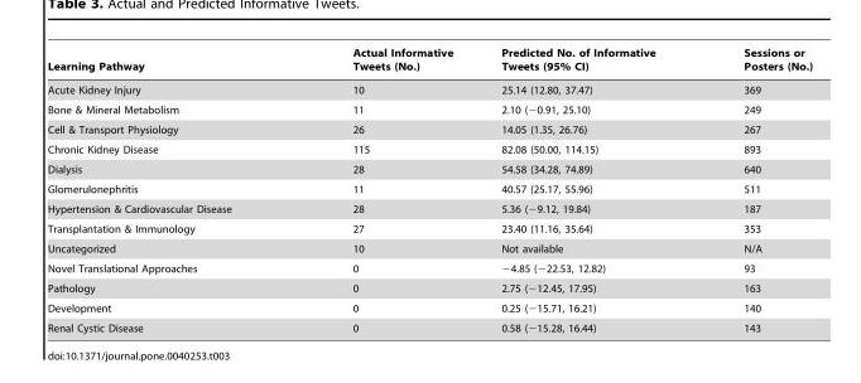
<table><thead><tr><td>Learning Pathway</td><td>Actual Informative Tweets (No.)</td><td>Predicted No. of Informative Tweets (95% CI)</td><td>Sessions or Posters (No.)</td></tr></thead><tbody><tr><td>Acute Kidney Injury</td><td>10</td><td>25.14 (12.80, 37.47)</td><td>369</td></tr><tr><td>Bone &amp; Mineral Metabolism</td><td>11</td><td>2.10 (−0.91, 25.10)</td><td>249</td></tr><tr><td>Cell &amp; Transport Physiology</td><td>26</td><td>14.05 (1.35, 26.76)</td><td>267</td></tr><tr><td>Chronic Kidney Disease</td><td>115</td><td>82.08 (50.00, 114.15)</td><td>893</td></tr><tr><td>Dialysis</td><td>28</td><td>54.58 (34.28, 74.89)</td><td>640</td></tr><tr><td>Glomerulonephritis</td><td>11</td><td>40.57 (25.17, 55.96)</td><td>511</td></tr><tr><td>Hypertension &amp; Cardiovascular Disease</td><td>28</td><td>5.36 (−9.12, 19.84)</td><td>187</td></tr><tr><td>Transplantation &amp; Immunology</td><td>27</td><td>23.40 (11.16, 35.64)</td><td>353</td></tr><tr><td>Uncategorized</td><td>10</td><td>Not available</td><td>N/A</td></tr><tr><td>Novel Translational Approaches</td><td>0</td><td>−4.85 (−22.53, 12.82)</td><td>93</td></tr><tr><td>Pathology</td><td>0</td><td>2.75 (−12.45, 17.95)</td><td>163</td></tr><tr><td>Development</td><td>0</td><td>0.25 (−15.71, 16.21)</td><td>140</td></tr><tr><td>Renal Cystic Disease</td><td>0</td><td>0.58 (−15.28, 16.44)</td><td>143</td></tr></tbody></table>